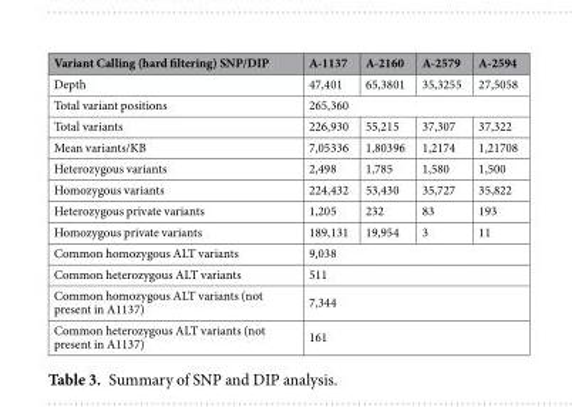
<table><thead><tr><td>Variant Calling (hard filtering) SNP/DIP</td><td>A-1137</td><td>A-2160</td><td>A-2579</td><td>A-2594</td></tr></thead><tbody><tr><td>Depth</td><td>47,401</td><td>65,3801</td><td>35,3255</td><td>27,5058</td></tr><tr><td>Total variant positions</td><td colspan="4">265,360</td></tr><tr><td>Total variants</td><td>226,930</td><td>55,215</td><td>37,307</td><td>37,322</td></tr><tr><td>Mean variants/KB</td><td>7,05336</td><td>1,80396</td><td>1,2174</td><td>1,21708</td></tr><tr><td>Heterozygous variants</td><td>2,498</td><td>1,785</td><td>1,580</td><td>1,500</td></tr><tr><td>Homozygous variants</td><td>224,432</td><td>53,430</td><td>35,727</td><td>35,822</td></tr><tr><td>Heterozygous private variants</td><td>1,205</td><td>232</td><td>83</td><td>193</td></tr><tr><td>Homozygous private variants</td><td>189,131</td><td>19,954</td><td>3</td><td>11</td></tr><tr><td>Common homozygous ALT variants</td><td colspan="4">9,038</td></tr><tr><td>Common heterozygous ALT variants</td><td colspan="4">511</td></tr><tr><td>Common homozygous ALT variants (not present in A1137)</td><td colspan="4">7,344</td></tr><tr><td>Common heterozygous ALT variants (not present in A1137)</td><td colspan="4">161</td></tr></tbody></table>